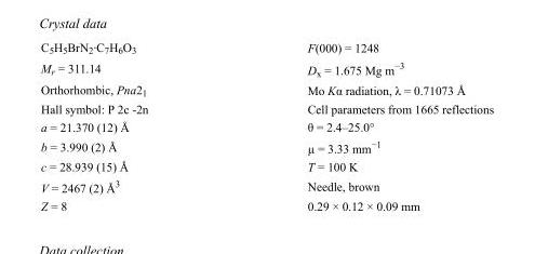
<table><tbody><tr><td>C<sub>5</sub>H<sub>5</sub>BrN<sub>2</sub>·C<sub>7</sub>H<sub>6</sub>O<sub>3</sub></td><td>F(000) = 1248</td></tr><tr><td>M<sub>r</sub> = 311.14</td><td>D<sub>x</sub> = 1.675 Mg m<sup>−3</sup></td></tr><tr><td>Orthorhombic, Pna2<sub>1</sub></td><td>Mo Kα radiation, λ = 0.71073 Å</td></tr><tr><td>Hall symbol: P 2c -2n</td><td>Cell parameters from 1665 reflections</td></tr><tr><td>a = 21.370 (12) Å</td><td>θ = 2.4–25.0°</td></tr><tr><td>b = 3.990 (2) Å</td><td>µ = 3.33 mm<sup>−1</sup></td></tr><tr><td>c = 28.939 (15) Å</td><td>T = 100 K</td></tr><tr><td>V = 2467 (2) Å<sup>3</sup></td><td>Needle, brown</td></tr><tr><td>Z = 8</td><td>0.29 × 0.12 × 0.09 mm</td></tr></tbody></table>